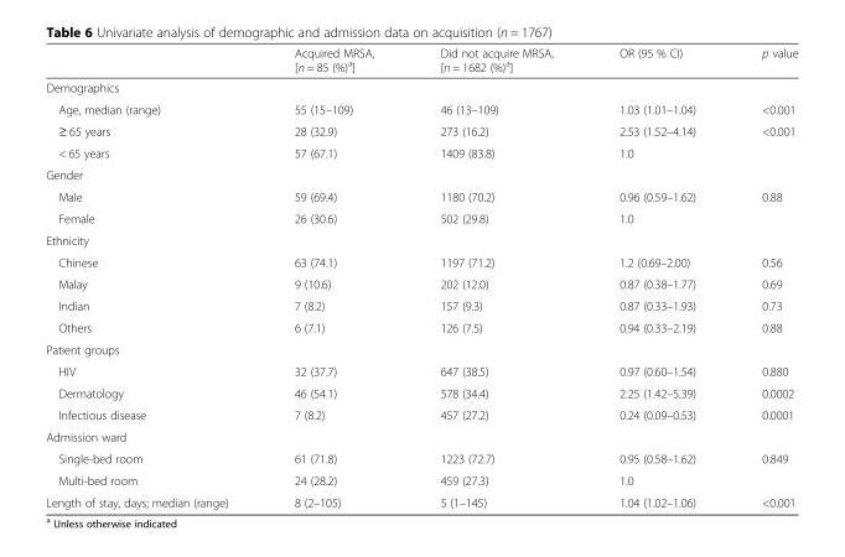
<table><thead><tr><td></td><td>Acquired MRSA, [n = 85 (%)<sup>a</sup>]</td><td>Did not acquire MRSA, [n = 1682 (%)<sup>a</sup>]</td><td>OR (95 % CI)</td><td>p value</td></tr></thead><tbody><tr><td colspan="5">Demographics</td></tr><tr><td>Age, median (range)</td><td>55 (15–109)</td><td>46 (13–109)</td><td>1.03 (1.01–1.04)</td><td>&lt;0.001</td></tr><tr><td>≥ 65 years</td><td>28 (32.9)</td><td>273 (16.2)</td><td>2.53 (1.52–4.14)</td><td>&lt;0.001</td></tr><tr><td>&lt; 65 years</td><td>57 (67.1)</td><td>1409 (83.8)</td><td>1.0</td><td></td></tr><tr><td colspan="5">Gender</td></tr><tr><td>Male</td><td>59 (69.4)</td><td>1180 (70.2)</td><td>0.96 (0.59–1.62)</td><td>0.88</td></tr><tr><td>Female</td><td>26 (30.6)</td><td>502 (29.8)</td><td>1.0</td><td></td></tr><tr><td colspan="5">Ethnicity</td></tr><tr><td>Chinese</td><td>63 (74.1)</td><td>1197 (71.2)</td><td>1.2 (0.69–2.00)</td><td>0.56</td></tr><tr><td>Malay</td><td>9 (10.6)</td><td>202 (12.0)</td><td>0.87 (0.38–1.77)</td><td>0.69</td></tr><tr><td>Indian</td><td>7 (8.2)</td><td>157 (9.3)</td><td>0.87 (0.33–1.93)</td><td>0.73</td></tr><tr><td>Others</td><td>6 (7.1)</td><td>126 (7.5)</td><td>0.94 (0.33–2.19)</td><td>0.88</td></tr><tr><td colspan="5">Patient groups</td></tr><tr><td>HIV</td><td>32 (37.7)</td><td>647 (38.5)</td><td>0.97 (0.60–1.54)</td><td>0.880</td></tr><tr><td>Dermatology</td><td>46 (54.1)</td><td>578 (34.4)</td><td>2.25 (1.42–5.39)</td><td>0.0002</td></tr><tr><td>Infectious disease</td><td>7 (8.2)</td><td>457 (27.2)</td><td>0.24 (0.09–0.53)</td><td>0.0001</td></tr><tr><td colspan="5">Admission ward</td></tr><tr><td>Single-bed room</td><td>61 (71.8)</td><td>1223 (72.7)</td><td>0.95 (0.58–1.62)</td><td>0.849</td></tr><tr><td>Multi-bed room</td><td>24 (28.2)</td><td>459 (27.3)</td><td>1.0</td><td></td></tr><tr><td>Length of stay, days; median (range)</td><td>8 (2–105)</td><td>5 (1–145)</td><td>1.04 (1.02–1.06)</td><td>&lt;0.001</td></tr></tbody></table>